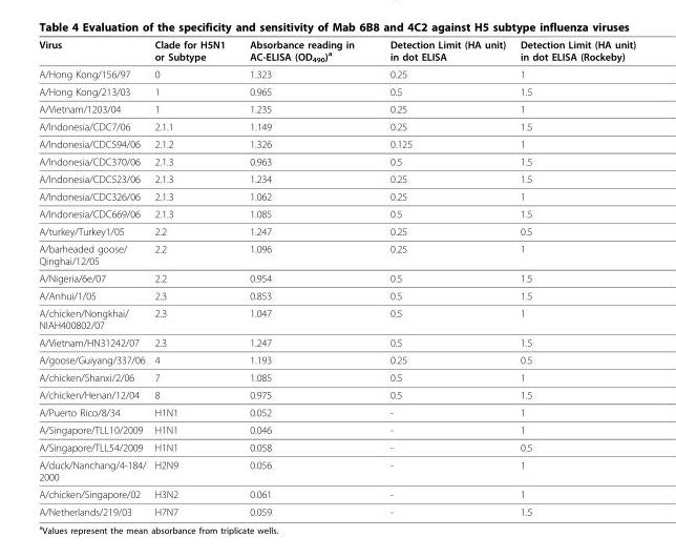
<table><thead><tr><td>Virus</td><td>Clade for H5N1 or Subtype</td><td>Absorbance reading in AC-ELISA (OD<sub>490</sub>)<sup>a</sup></td><td>Detection Limit (HA unit) in dot ELISA</td><td>Detection Limit (HA unit) in dot ELISA (Rockeby)</td></tr></thead><tbody><tr><td>A/Hong Kong/156/97</td><td>0</td><td>1.323</td><td>0.25</td><td>1</td></tr><tr><td>A/Hong Kong/213/03</td><td>1</td><td>0.965</td><td>0.5</td><td>1.5</td></tr><tr><td>A/Vietnam/1203/04</td><td>1</td><td>1.235</td><td>0.25</td><td>1</td></tr><tr><td>A/Indonesia/CDC7/06</td><td>2.1.1</td><td>1.149</td><td>0.25</td><td>1.5</td></tr><tr><td>A/Indonesia/CDC594/06</td><td>2.1.2</td><td>1.326</td><td>0.125</td><td>1</td></tr><tr><td>A/Indonesia/CDC370/06</td><td>2.1.3</td><td>0.963</td><td>0.5</td><td>1.5</td></tr><tr><td>A/Indonesia/CDC523/06</td><td>2.1.3</td><td>1.234</td><td>0.25</td><td>1.5</td></tr><tr><td>A/Indonesia/CDC326/06</td><td>2.1.3</td><td>1.062</td><td>0.25</td><td>1</td></tr><tr><td>A/Indonesia/CDC669/06</td><td>2.1.3</td><td>1.085</td><td>0.5</td><td>1.5</td></tr><tr><td>A/turkey/Turkey1/05</td><td>2.2</td><td>1.247</td><td>0.25</td><td>0.5</td></tr><tr><td>A/barheaded goose/ Qinghai/12/05</td><td>2.2</td><td>1.096</td><td>0.25</td><td>1</td></tr><tr><td>A/Nigeria/6e/07</td><td>2.2</td><td>0.954</td><td>0.5</td><td>1.5</td></tr><tr><td>A/Anhui/1/05</td><td>2.3</td><td>0.853</td><td>0.5</td><td>1.5</td></tr><tr><td>A/chicken/Nongkhai/ NIAH400802/07</td><td>2.3</td><td>1.047</td><td>0.5</td><td>1</td></tr><tr><td>A/Vietnam/HN31242/07</td><td>2.3</td><td>1.247</td><td>0.5</td><td>1.5</td></tr><tr><td>A/goose/Guiyang/337/06</td><td>4</td><td>1.193</td><td>0.25</td><td>0.5</td></tr><tr><td>A/chicken/Shanxi/2/06</td><td>7</td><td>1.085</td><td>0.5</td><td>1</td></tr><tr><td>A/chicken/Henan/12/04</td><td>8</td><td>0.975</td><td>0.5</td><td>1.5</td></tr><tr><td>A/Puerto Rico/8/34</td><td>H1N1</td><td>0.052</td><td>-</td><td>1</td></tr><tr><td>A/Singapore/TLL10/2009</td><td>H1N1</td><td>0.046</td><td>-</td><td>1</td></tr><tr><td>A/Singapore/TLL54/2009</td><td>H1N1</td><td>0.058</td><td>-</td><td>0.5</td></tr><tr><td>A/duck/Nanchang/4-184/ 2000</td><td>H2N9</td><td>0.056</td><td>-</td><td>1</td></tr><tr><td>A/chicken/Singapore/02</td><td>H3N2</td><td>0.061</td><td>-</td><td>1</td></tr><tr><td>A/Netherlands/219/03</td><td>H7N7</td><td>0.059</td><td>-</td><td>1.5</td></tr></tbody></table>